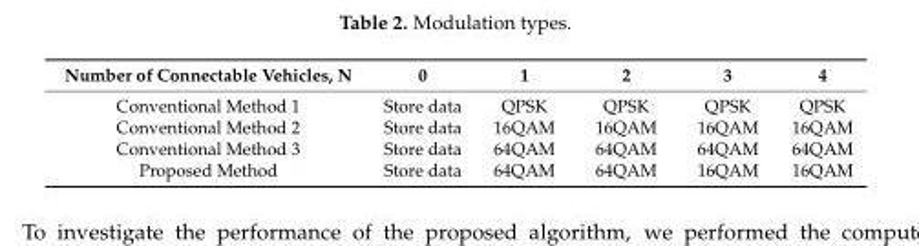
<table><thead><tr><td>Number of Connectable Vehicles, N</td><td>0</td><td>1</td><td>2</td><td>3</td><td>4</td></tr></thead><tbody><tr><td>Conventional Method 1</td><td>Store data</td><td>QPSK</td><td>QPSK</td><td>QPSK</td><td>QPSK</td></tr><tr><td>Conventional Method 2</td><td>Store data</td><td>16QAM</td><td>16QAM</td><td>16QAM</td><td>16QAM</td></tr><tr><td>Conventional Method 3</td><td>Store data</td><td>64QAM</td><td>64QAM</td><td>64QAM</td><td>64QAM</td></tr><tr><td>Proposed Method</td><td>Store data</td><td>64QAM</td><td>64QAM</td><td>16QAM</td><td>16QAM</td></tr></tbody></table>